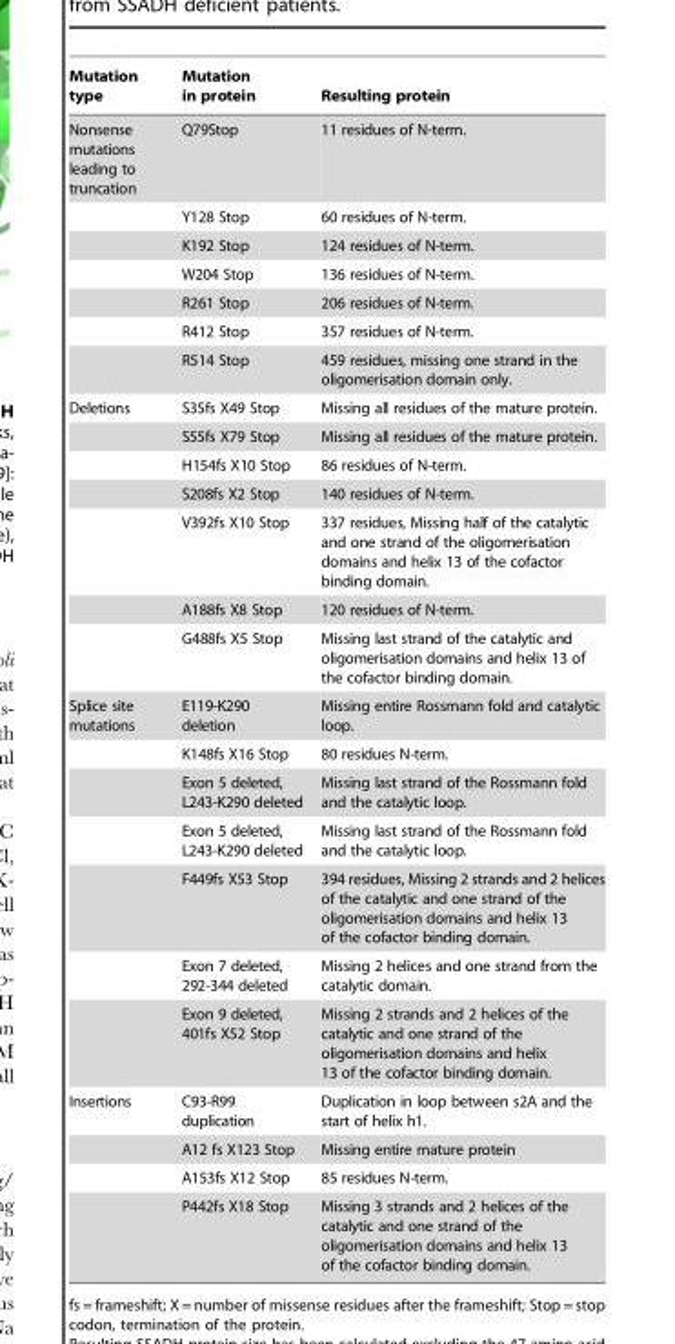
<table><thead><tr><td>Mutation type</td><td>Mutation in protein</td><td>Resulting protein</td></tr></thead><tbody><tr><td rowspan="7">Nonsense mutations leading to truncation</td><td>Q79Stop</td><td>11 residues of N-term.</td></tr><tr><td>Y128 Stop</td><td>60 residues of N-term.</td></tr><tr><td>K192 Stop</td><td>124 residues of N-term.</td></tr><tr><td>W204 Stop</td><td>136 residues of N-term.</td></tr><tr><td>R261 Stop</td><td>206 residues of N-term.</td></tr><tr><td>R412 Stop</td><td>357 residues of N-term.</td></tr><tr><td>R514 Stop</td><td>459 residues, missing one strand in the oligomerisation domain only.</td></tr><tr><td rowspan="7">Deletions</td><td>S35fs X49 Stop</td><td>Missing all residues of the mature protein.</td></tr><tr><td>S55fs X79 Stop</td><td>Missing all residues of the mature protein.</td></tr><tr><td>H154fs X10 Stop</td><td>86 residues of N-term.</td></tr><tr><td>S208fs X2 Stop</td><td>140 residues of N-term.</td></tr><tr><td>V392fs X10 Stop</td><td>337 residues, Missing half of the catalytic and one strand of the oligomerisation domains and helix 13 of the cofactor binding domain.</td></tr><tr><td>A188fs X8 Stop</td><td>120 residues of N-term.</td></tr><tr><td>G488fs X5 Stop</td><td>Missing last strand of the catalytic and oligomerisation domains and helix 13 of the cofactor binding domain.</td></tr><tr><td rowspan="7">Splice site mutations</td><td>E119-K290 deletion</td><td>Missing entire Rossmann fold and catalytic loop.</td></tr><tr><td>K148fs X16 Stop</td><td>80 residues N-term.</td></tr><tr><td>Exon 5 deleted, L243-K290 deleted</td><td>Missing last strand of the Rossmann fold and the catalytic loop.</td></tr><tr><td>Exon 5 deleted, L243-K290 deleted</td><td>Missing last strand of the Rossmann fold and the catalytic loop.</td></tr><tr><td>F449fs X53 Stop</td><td>394 residues, Missing 2 strands and 2 helices of the catalytic and one strand of the oligomerisation domains and helix 13 of the cofactor binding domain.</td></tr><tr><td>Exon 7 deleted, 292-344 deleted</td><td>Missing 2 helices and one strand from the catalytic domain.</td></tr><tr><td>Exon 9 deleted, 401fs X52 Stop</td><td>Missing 2 strands and 2 helices of the catalytic and one strand of the oligomerisation domains and helix 13 of the cofactor binding domain.</td></tr><tr><td rowspan="4">Insertions</td><td>C93-R99 duplication</td><td>Duplication in loop between s2A and the start of helix h1.</td></tr><tr><td>A12 fs X123 Stop</td><td>Missing entire mature protein</td></tr><tr><td>A153fs X12 Stop</td><td>85 residues N-term.</td></tr><tr><td>P442fs X18 Stop</td><td>Missing 3 strands and 2 helices of the catalytic and one strand of the oligomerisation domains and helix 13 of the cofactor binding domain.</td></tr></tbody></table>